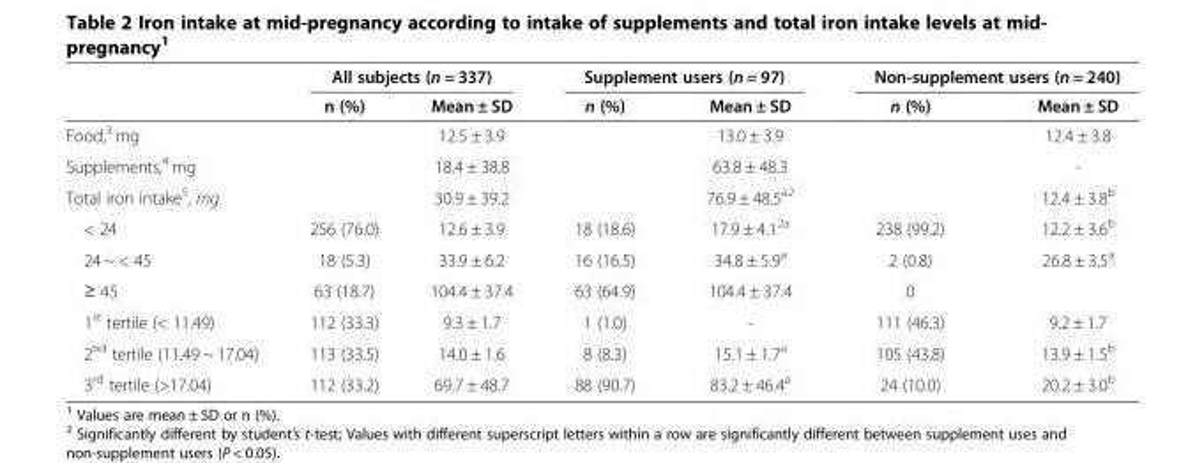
<table><thead><tr><td rowspan="2"></td><td colspan="2">All subjects (n = 337)</td><td colspan="2">Supplement users (n = 97)</td><td colspan="2">Non-supplement users (n = 240)</td></tr><tr><td>n (%)</td><td>Mean ± SD</td><td>n (%)</td><td>Mean ± SD</td><td>n (%)</td><td>Mean ± SD</td></tr></thead><tbody><tr><td>Food,<sup>3</sup> mg</td><td></td><td>12.5 ± 3.9</td><td></td><td>13.0 ± 3.9</td><td></td><td>12.4 ± 3.8</td></tr><tr><td>Supplements,<sup>4</sup> mg</td><td></td><td>18.4 ± 38.8</td><td></td><td>63.8 ± 48.3</td><td></td><td>-</td></tr><tr><td>Total iron intake<sup>5</sup>, mg</td><td></td><td>30.9 ± 39.2</td><td></td><td>76.9 ± 48.5<sup>a2</sup></td><td></td><td>12.4 ± 3.8<sup>b</sup></td></tr><tr><td>&lt; 24</td><td>256 (76.0)</td><td>12.6 ± 3.9</td><td>18 (18.6)</td><td>17.9 ± 4.1<sup>2a</sup></td><td>238 (99.2)</td><td>12.2 ± 3.6<sup>b</sup></td></tr><tr><td>24 ~ &lt; 45</td><td>18 (5.3)</td><td>33.9 ± 6.2</td><td>16 (16.5)</td><td>34.8 ± 5.9<sup>a</sup></td><td>2 (0.8)</td><td>26.8 ± 3.5<sup>a</sup></td></tr><tr><td>≥ 45</td><td>63 (18.7)</td><td>104.4 ± 37.4</td><td>63 (64.9)</td><td>104.4 ± 37.4</td><td>0</td><td></td></tr><tr><td>1<sup>st</sup> tertile (&lt; 11.49)</td><td>112 (33.3)</td><td>9.3 ± 1.7</td><td>1 (1.0)</td><td>-</td><td>111 (46.3)</td><td>9.2 ± 1.7</td></tr><tr><td>2<sup>nd</sup> tertile (11.49 ~ 17.04)</td><td>113 (33.5)</td><td>14.0 ± 1.6</td><td>8 (8.3)</td><td>15.1 ± 1.7<sup>a</sup></td><td>105 (43.8)</td><td>13.9 ± 1.5<sup>b</sup></td></tr><tr><td>3<sup>rd</sup> tertile (&gt;17.04)</td><td>112 (33.2)</td><td>69.7 ± 48.7</td><td>88 (90.7)</td><td>83.2 ± 46.4<sup>a</sup></td><td>24 (10.0)</td><td>20.2 ± 3.0<sup>b</sup></td></tr></tbody></table>